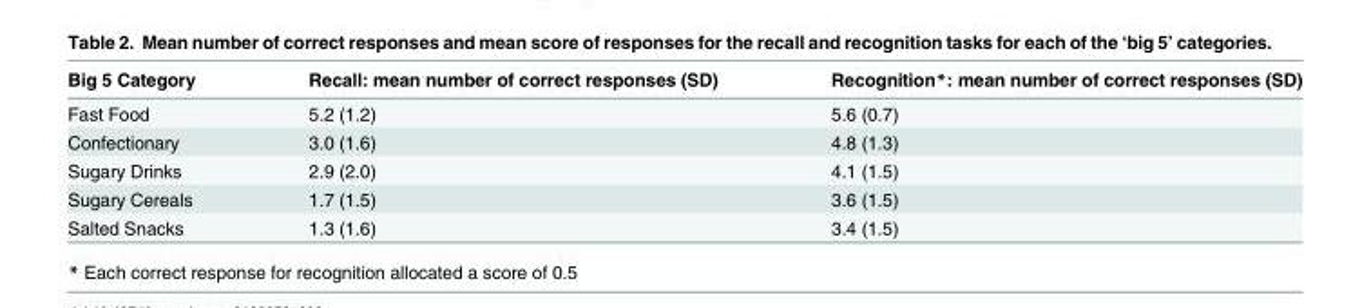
<table><thead><tr><td>Big 5 Category</td><td>Recall: mean number of correct responses (SD)</td><td>Recognition*: mean number of correct responses (SD)</td></tr></thead><tbody><tr><td>Fast Food</td><td>5.2 (1.2)</td><td>5.6 (0.7)</td></tr><tr><td>Confectionary</td><td>3.0 (1.6)</td><td>4.8 (1.3)</td></tr><tr><td>Sugary Drinks</td><td>2.9 (2.0)</td><td>4.1 (1.5)</td></tr><tr><td>Sugary Cereals</td><td>1.7 (1.5)</td><td>3.6 (1.5)</td></tr><tr><td>Salted Snacks</td><td>1.3 (1.6)</td><td>3.4 (1.5)</td></tr></tbody></table>